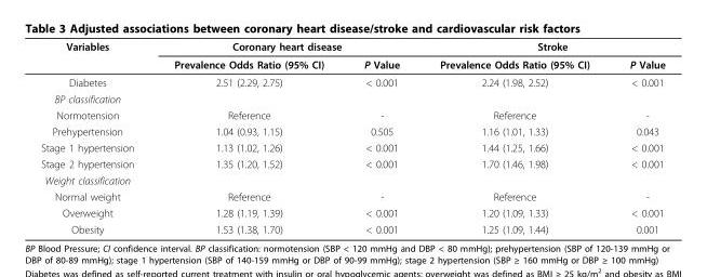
<table><thead><tr><td rowspan="2">Variables</td><td colspan="2">Coronary heart disease</td><td colspan="2">Stroke</td></tr><tr><td>Prevalence Odds Ratio (95% CI)</td><td>P Value</td><td>Prevalence Odds Ratio (95% CI)</td><td>P Value</td></tr></thead><tbody><tr><td>Diabetes</td><td>2.51 (2.29, 2.75)</td><td>&lt; 0.001</td><td>2.24 (1.98, 2.52)</td><td>&lt; 0.001</td></tr><tr><td colspan="5">BP classification</td></tr><tr><td>Normotension</td><td>Reference</td><td>-</td><td>Reference</td><td>-</td></tr><tr><td>Prehypertension</td><td>1.04 (0.93, 1.15)</td><td>0.505</td><td>1.16 (1.01, 1.33)</td><td>0.043</td></tr><tr><td>Stage 1 hypertension</td><td>1.13 (1.02, 1.26)</td><td>&lt; 0.001</td><td>1.44 (1.25, 1.66)</td><td>&lt; 0.001</td></tr><tr><td>Stage 2 hypertension</td><td>1.35 (1.20, 1.52)</td><td>&lt; 0.001</td><td>1.70 (1.46, 1.98)</td><td>&lt; 0.001</td></tr><tr><td colspan="5">Weight classification</td></tr><tr><td>Normal weight</td><td>Reference</td><td>-</td><td>Reference</td><td>-</td></tr><tr><td>Overweight</td><td>1.28 (1.19, 1.39)</td><td>&lt; 0.001</td><td>1.20 (1.09, 1.33)</td><td>&lt; 0.001</td></tr><tr><td>Obesity</td><td>1.53 (1.38, 1.70)</td><td>&lt; 0.001</td><td>1.25 (1.09, 1.44)</td><td>0.001</td></tr></tbody></table>